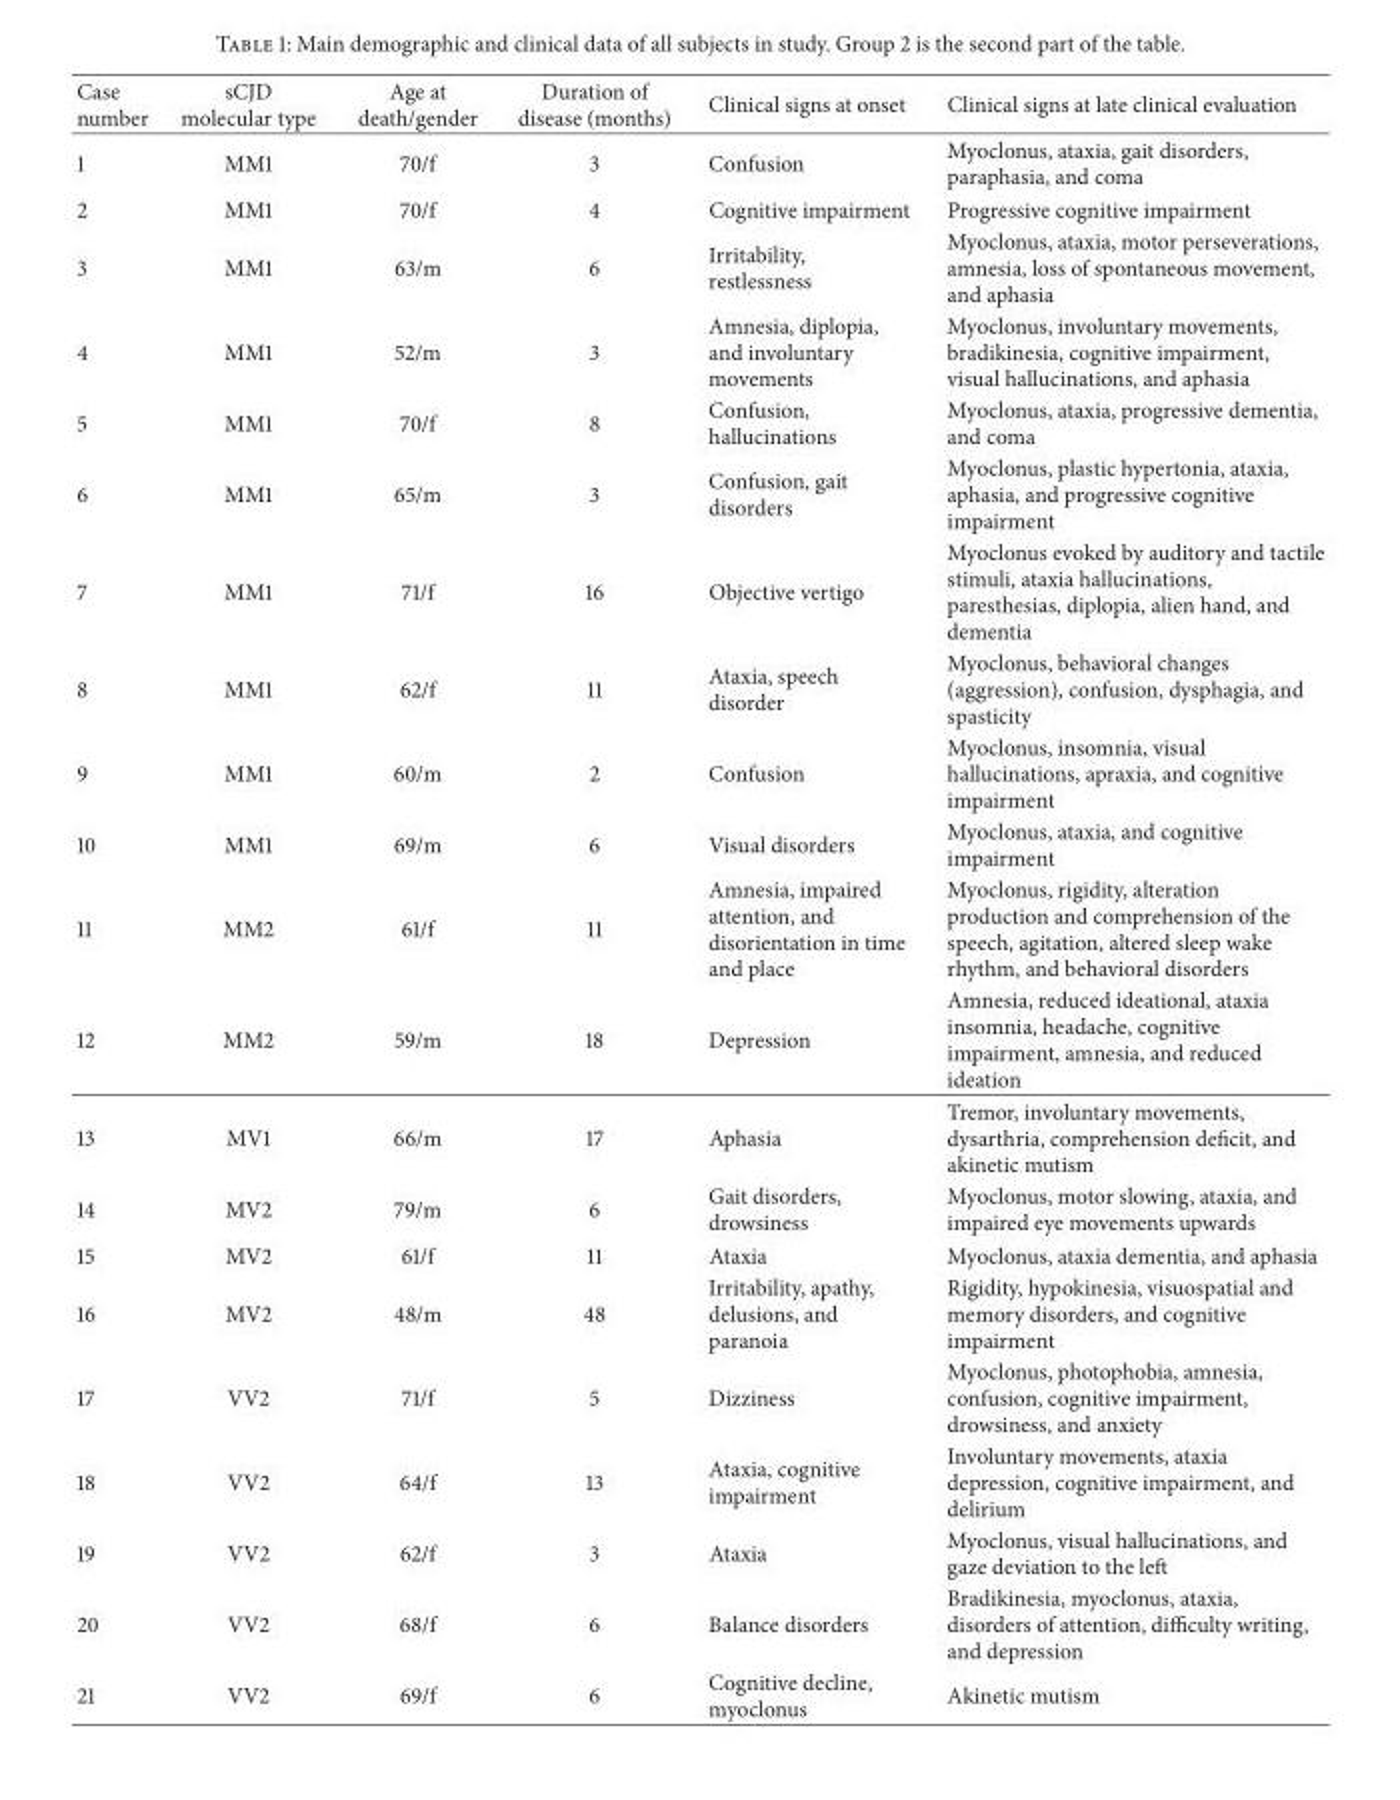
<table><thead><tr><td>Case number</td><td>sCJD molecular type</td><td>Age at death/gender</td><td>Duration of disease (months)</td><td>Clinical signs at onset</td><td>Clinical signs at late clinical evaluation</td></tr></thead><tbody><tr><td>1</td><td>MM1</td><td>70/f</td><td>3</td><td>Confusion</td><td>Myoclonus, ataxia, gait disorders, paraphasia, and coma</td></tr><tr><td>2</td><td>MM1</td><td>70/f</td><td>4</td><td>Cognitive impairment</td><td>Progressive cognitive impairment</td></tr><tr><td>3</td><td>MM1</td><td>63/m</td><td>6</td><td>Irritability, restlessness</td><td>Myoclonus, ataxia, motor perseverations, amnesia, loss of spontaneous movement, and aphasia</td></tr><tr><td>4</td><td>MM1</td><td>52/m</td><td>3</td><td>Amnesia, diplopia, and involuntary movements</td><td>Myoclonus, involuntary movements, bradikinesia, cognitive impairment, visual hallucinations, and aphasia</td></tr><tr><td>5</td><td>MM1</td><td>70/f</td><td>8</td><td>Confusion, hallucinations</td><td>Myoclonus, ataxia, progressive dementia, and coma</td></tr><tr><td>6</td><td>MM1</td><td>65/m</td><td>3</td><td>Confusion, gait disorders</td><td>Myoclonus, plastic hypertonia, ataxia, aphasia, and progressive cognitive impairment</td></tr><tr><td>7</td><td>MM1</td><td>71/f</td><td>16</td><td>Objective vertigo</td><td>Myoclonus evoked by auditory and tactile stimuli, ataxia hallucinations, paresthesias, diplopia, alien hand, and dementia</td></tr><tr><td>8</td><td>MM1</td><td>62/f</td><td>11</td><td>Ataxia, speech disorder</td><td>Myoclonus, behavioral changes (aggression), confusion, dysphagia, and spasticity</td></tr><tr><td>9</td><td>MM1</td><td>60/m</td><td>2</td><td>Confusion</td><td>Myoclonus, insomnia, visual hallucinations, apraxia, and cognitive impairment</td></tr><tr><td>10</td><td>MM1</td><td>69/m</td><td>6</td><td>Visual disorders</td><td>Myoclonus, ataxia, and cognitive impairment</td></tr><tr><td>11</td><td>MM2</td><td>61/f</td><td>11</td><td>Amnesia, impaired attention, and disorientation in time and place</td><td>Myoclonus, rigidity, alteration production and comprehension of the speech, agitation, altered sleep wake rhythm, and behavioral disorders</td></tr><tr><td>12</td><td>MM2</td><td>59/m</td><td>18</td><td>Depression</td><td>Amnesia, reduced ideational, ataxia insomnia, headache, cognitive impairment, amnesia, and reduced ideation</td></tr><tr><td>13</td><td>MV1</td><td>66/m</td><td>17</td><td>Aphasia</td><td>Tremor, involuntary movements, dysarthria, comprehension deficit, and akinetic mutism</td></tr><tr><td>14</td><td>MV2</td><td>79/m</td><td>6</td><td>Gait disorders, drowsiness</td><td>Myoclonus, motor slowing, ataxia, and impaired eye movements upwards</td></tr><tr><td>15</td><td>MV2</td><td>61/f</td><td>11</td><td>Ataxia</td><td>Myoclonus, ataxia dementia, and aphasia</td></tr><tr><td>16</td><td>MV2</td><td>48/m</td><td>48</td><td>Irritability, apathy, delusions, and paranoia</td><td>Rigidity, hypokinesia, visuospatial and memory disorders, and cognitive impairment</td></tr><tr><td>17</td><td>VV2</td><td>71/f</td><td>5</td><td>Dizziness</td><td>Myoclonus, photophobia, amnesia, confusion, cognitive impairment, drowsiness, and anxiety</td></tr><tr><td>18</td><td>VV2</td><td>64/f</td><td>13</td><td>Ataxia, cognitive impairment</td><td>Involuntary movements, ataxia depression, cognitive impairment, and delirium</td></tr><tr><td>19</td><td>VV2</td><td>62/f</td><td>3</td><td>Ataxia</td><td>Myoclonus, visual hallucinations, and gaze deviation to the left</td></tr><tr><td>20</td><td>VV2</td><td>68/f</td><td>6</td><td>Balance disorders</td><td>Bradikinesia, myoclonus, ataxia, disorders of attention, difficulty writing, and depression</td></tr><tr><td>21</td><td>VV2</td><td>69/f</td><td>6</td><td>Cognitive decline, myoclonus</td><td>Akinetic mutism</td></tr></tbody></table>